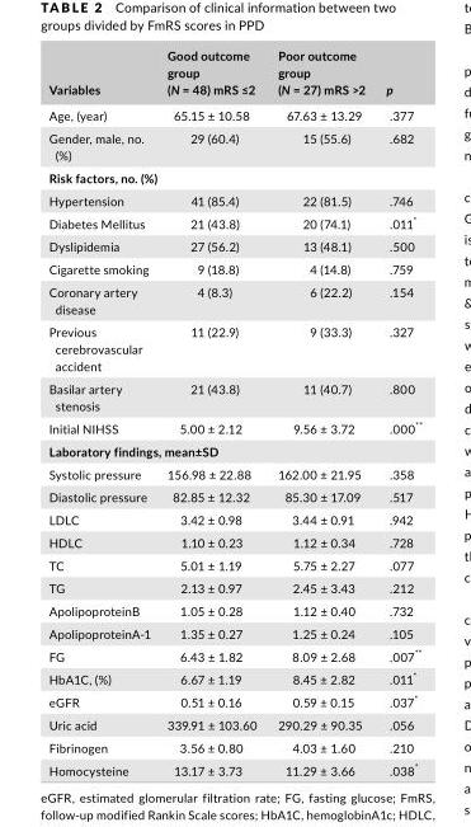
<table><thead><tr><td>Variables</td><td>Good outcome group (N = 48) mRS ≤2</td><td>Poor outcome group (N = 27) mRS &gt;2</td><td>p</td></tr></thead><tbody><tr><td>Age, (year)</td><td>65.15 ± 10.58</td><td>67.63 ± 13.29</td><td>.377</td></tr><tr><td>Gender, male, no. (%)</td><td>29 (60.4)</td><td>15 (55.6)</td><td>.682</td></tr><tr><td colspan="4">Risk factors, no. (%)</td></tr><tr><td>Hypertension</td><td>41 (85.4)</td><td>22 (81.5)</td><td>.746</td></tr><tr><td>Diabetes Mellitus</td><td>21 (43.8)</td><td>20 (74.1)</td><td>.011*</td></tr><tr><td>Dyslipidemia</td><td>27 (56.2)</td><td>13 (48.1)</td><td>.500</td></tr><tr><td>Cigarette smoking</td><td>9 (18.8)</td><td>4 (14.8)</td><td>.759</td></tr><tr><td>Coronary artery disease</td><td>4 (8.3)</td><td>6 (22.2)</td><td>.154</td></tr><tr><td>Previous cerebrovascular accident</td><td>11 (22.9)</td><td>9 (33.3)</td><td>.327</td></tr><tr><td>Basilar artery stenosis</td><td>21 (43.8)</td><td>11 (40.7)</td><td>.800</td></tr><tr><td>Initial NIHSS</td><td>5.00 ± 2.12</td><td>9.56 ± 3.72</td><td>.000**</td></tr><tr><td colspan="4">Laboratory findings, mean±SD</td></tr><tr><td>Systolic pressure</td><td>156.98 ± 22.88</td><td>162.00 ± 21.95</td><td>.358</td></tr><tr><td>Diastolic pressure</td><td>82.85 ± 12.32</td><td>85.30 ± 17.09</td><td>.517</td></tr><tr><td>LDLC</td><td>3.42 ± 0.98</td><td>3.44 ± 0.91</td><td>.942</td></tr><tr><td>HDLC</td><td>1.10 ± 0.23</td><td>1.12 ± 0.34</td><td>.728</td></tr><tr><td>TC</td><td>5.01 ± 1.19</td><td>5.75 ± 2.27</td><td>.077</td></tr><tr><td>TG</td><td>2.13 ± 0.97</td><td>2.45 ± 3.43</td><td>.212</td></tr><tr><td>ApolipoproteinB</td><td>1.05 ± 0.28</td><td>1.12 ± 0.40</td><td>.732</td></tr><tr><td>ApolipoproteinA- 1</td><td>1.35 ± 0.27</td><td>1.25 ± 0.24</td><td>.105</td></tr><tr><td>FG</td><td>6.43 ± 1.82</td><td>8.09 ± 2.68</td><td>.007**</td></tr><tr><td>HbA1C, (%)</td><td>6.67 ± 1.19</td><td>8.45 ± 2.82</td><td>.011*</td></tr><tr><td>eGFR</td><td>0.51 ± 0.16</td><td>0.59 ± 0.15</td><td>.037*</td></tr><tr><td>Uric acid</td><td>339.91 ± 103.60</td><td>290.29 ± 90.35</td><td>.056</td></tr><tr><td>Fibrinogen</td><td>3.56 ± 0.80</td><td>4.03 ± 1.60</td><td>.210</td></tr><tr><td>Homocysteine</td><td>13.17 ± 3.73</td><td>11.29 ± 3.66</td><td>.038*</td></tr></tbody></table>